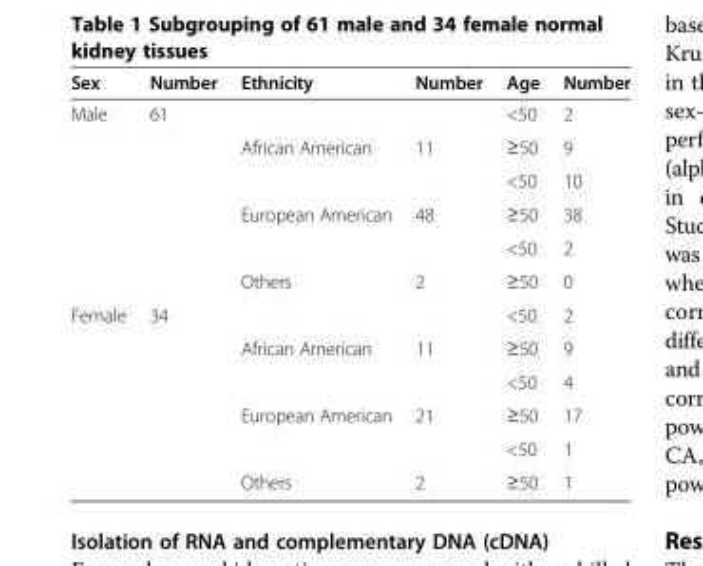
<table><thead><tr><td>Sex</td><td>Number</td><td>Ethnicity</td><td>Number</td><td>Age</td><td>Number</td></tr></thead><tbody><tr><td rowspan="6">Male</td><td>61</td><td></td><td></td><td>&lt;50</td><td>2</td></tr><tr><td></td><td>African American</td><td>11</td><td>≥50</td><td>9</td></tr><tr><td></td><td></td><td></td><td>&lt;50</td><td>10</td></tr><tr><td></td><td>European American</td><td>48</td><td>≥50</td><td>38</td></tr><tr><td></td><td></td><td></td><td>&lt;50</td><td>2</td></tr><tr><td></td><td>Others</td><td>2</td><td>≥50</td><td>0</td></tr><tr><td rowspan="6">Female</td><td>34</td><td></td><td></td><td>&lt;50</td><td>2</td></tr><tr><td></td><td>African American</td><td>11</td><td>≥50</td><td>9</td></tr><tr><td></td><td></td><td></td><td>&lt;50</td><td>4</td></tr><tr><td></td><td>European American</td><td>21</td><td>≥50</td><td>17</td></tr><tr><td></td><td></td><td></td><td>&lt;50</td><td>1</td></tr><tr><td></td><td>Others</td><td>2</td><td>≥50</td><td>1</td></tr></tbody></table>